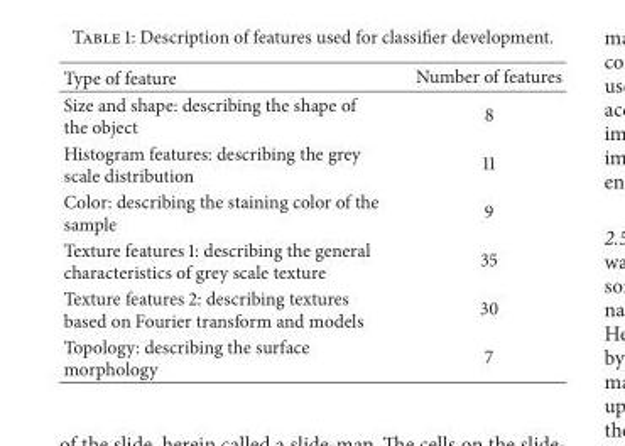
<table><thead><tr><td>Type of feature</td><td>Number of features</td></tr></thead><tbody><tr><td>Size and shape: describing the shape of the object</td><td>8</td></tr><tr><td>Histogram features: describing the grey scale distribution</td><td>11</td></tr><tr><td>Color: describing the staining color of the sample</td><td>9</td></tr><tr><td>Texture features 1: describing the general characteristics of grey scale texture</td><td>35</td></tr><tr><td>Texture features 2: describing textures based on Fourier transform and models</td><td>30</td></tr><tr><td>Topology: describing the surface morphology</td><td>7</td></tr></tbody></table>